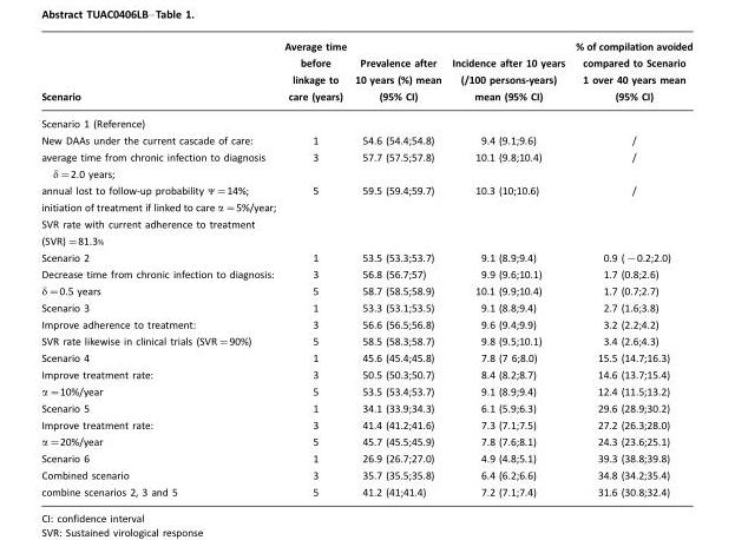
<table><thead><tr><td>Scenario</td><td>Average time before linkage to care (years)</td><td>Prevalence after 10 years (%) mean (95% CI)</td><td>Incidence after 10 years (/100 persons-years) mean (95% CI)</td><td>% of compilation avoided compared to Scenario 1 over 40 years mean (95% CI)</td></tr></thead><tbody><tr><td colspan="5">Scenario 1 (Reference)</td></tr><tr><td>New DAAs under the current cascade of care:</td><td>1</td><td>54.6 (54.4;54.8)</td><td>9.4 (9.1;9.6)</td><td>/</td></tr><tr><td>average time from chronic infection to diagnosis δ=2.0 years;</td><td>3</td><td>57.7 (57.5;57.8)</td><td>10.1 (9.8;10.4)</td><td>/</td></tr><tr><td>annual lost to follow-up probability Ψ=14%;</td><td>5</td><td>59.5 (59.4;59.7)</td><td>10.3 (10;10.6)</td><td>/</td></tr><tr><td colspan="5">initiation of treatment if linked to care α=5%/year;</td></tr><tr><td colspan="5">SVR rate with current adherence to treatment</td></tr><tr><td colspan="5">(SVR)=81.3%</td></tr><tr><td>Scenario 2</td><td>1</td><td>53.5 (53.3;53.7)</td><td>9.1 (8.9;9.4)</td><td>0.9 (−0.2;2.0)</td></tr><tr><td>Decrease time from chronic infection to diagnosis:</td><td>3</td><td>56.8 (56.7;57)</td><td>9.9 (9.6;10.1)</td><td>1.7 (0.8;2.6)</td></tr><tr><td>δ=0.5 years</td><td>5</td><td>58.7 (58.5;58.9)</td><td>10.1 (9.9;10.4)</td><td>1.7 (0.7;2.7)</td></tr><tr><td>Scenario 3</td><td>1</td><td>53.3 (53.1;53.5)</td><td>9.1 (8.8;9.4)</td><td>2.7 (1.6;3.8)</td></tr><tr><td>Improve adherence to treatment:</td><td>3</td><td>56.6 (56.5;56.8)</td><td>9.6 (9.4;9.9)</td><td>3.2 (2.2;4.2)</td></tr><tr><td>SVR rate likewise in clinical trials (SVR=90%)</td><td>5</td><td>58.5 (58.3;58.7)</td><td>9.8 (9.5;10.1)</td><td>3.4 (2.6;4.3)</td></tr><tr><td>Scenario 4</td><td>1</td><td>45.6 (45.4;45.8)</td><td>7.8 (7 6;8.0)</td><td>15.5 (14.7;16.3)</td></tr><tr><td>Improve treatment rate:</td><td>3</td><td>50.5 (50.3;50.7)</td><td>8.4 (8.2;8.7)</td><td>14.6 (13.7;15.4)</td></tr><tr><td>α=10%/year</td><td>5</td><td>53.5 (53.4;53.7)</td><td>9.1 (8.9;9.4)</td><td>12.4 (11.5;13.2)</td></tr><tr><td>Scenario 5</td><td>1</td><td>34.1 (33.9;34.3)</td><td>6.1 (5.9;6.3)</td><td>29.6 (28.9;30.2)</td></tr><tr><td>Improve treatment rate:</td><td>3</td><td>41.4 (41.2;41.6)</td><td>7.3 (7.1;7.5)</td><td>27.2 (26.3;28.0)</td></tr><tr><td>α=20%/year</td><td>5</td><td>45.7 (45.5;45.9)</td><td>7.8 (7.6;8.1)</td><td>24.3 (23.6;25.1)</td></tr><tr><td>Scenario 6</td><td>1</td><td>26.9 (26.7;27.0)</td><td>4.9 (4.8;5.1)</td><td>39.3 (38.8;39.8)</td></tr><tr><td>Combined scenario</td><td>3</td><td>35.7 (35.5;35.8)</td><td>6.4 (6.2;6.6)</td><td>34.8 (34.2;35.4)</td></tr><tr><td>combine scenarios 2, 3 and 5</td><td>5</td><td>41.2 (41;41.4)</td><td>7.2 (7.1;7.4)</td><td>31.6 (30.8;32.4)</td></tr></tbody></table>